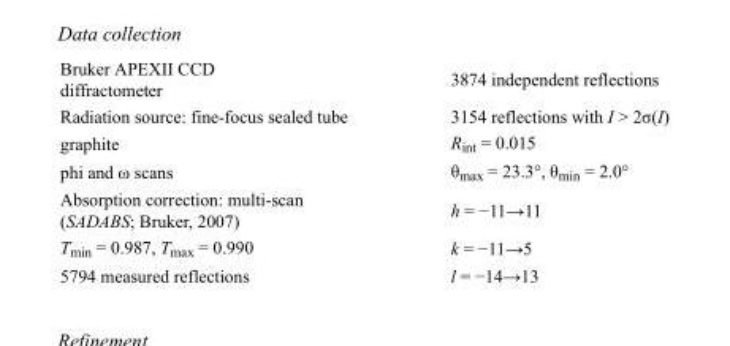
<table><tbody><tr><td>Bruker APEXII CCD diffractometer</td><td>3874 independent reflections</td></tr><tr><td>Radiation source: fine-focus sealed tube</td><td>3154 reflections with I &gt; 2σ(I)</td></tr><tr><td>graphite</td><td>R<sub>int</sub> = 0.015</td></tr><tr><td>phi and ω scans</td><td>θ<sub>max</sub> = 23.3°, θ<sub>min</sub> = 2.0°</td></tr><tr><td>Absorption correction: multi-scan (SADABS; Bruker, 2007)</td><td>h = −11→11</td></tr><tr><td>T<sub>min</sub> = 0.987, T<sub>max</sub> = 0.990</td><td>k = −11→5</td></tr><tr><td>5794 measured reflections</td><td>l = −14→13</td></tr></tbody></table>